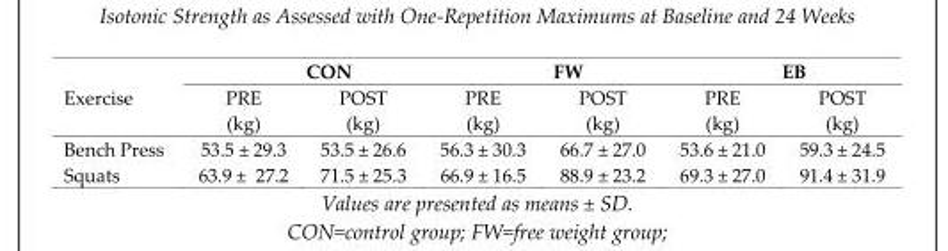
<table><thead><tr><td rowspan="2">Exercise</td><td colspan="2">CON</td><td colspan="2">FW</td><td colspan="2">EB</td></tr><tr><td>PRE (kg)</td><td>POST (kg)</td><td>PRE (kg)</td><td>POST (kg)</td><td>PRE (kg)</td><td>POST (kg)</td></tr></thead><tbody><tr><td>Bench Press</td><td>53.5 ± 29.3</td><td>53.5 ± 26.6</td><td>56.3 ± 30.3</td><td>66.7 ± 27.0</td><td>53.6 ± 21.0</td><td>59.3 ± 24.5</td></tr><tr><td>Squats</td><td>63.9 ± 27.2</td><td>71.5 ± 25.3</td><td>66.9 ± 16.5</td><td>88.9 ± 23.2</td><td>69.3 ± 27.0</td><td>91.4 ± 31.9</td></tr></tbody></table>